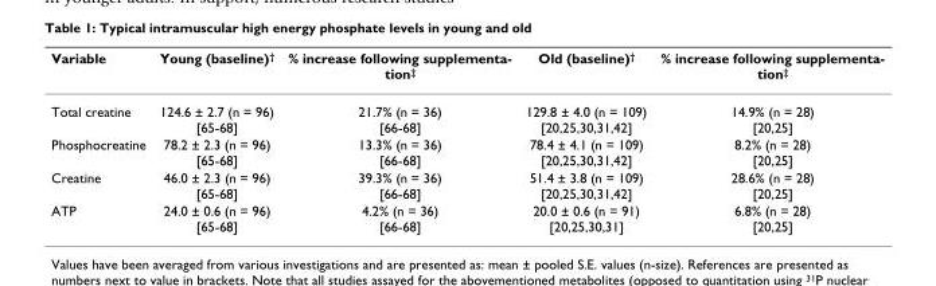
<table><thead><tr><td>Variable</td><td>Young (baseline)<sup>†</sup></td><td>% increase following supplementa- tion‡</td><td>Old (baseline)<sup>†</sup></td><td>% increase following supplementa- tion‡</td></tr></thead><tbody><tr><td>Total creatine</td><td>124.6 ± 2.7 (n = 96) [65-68]</td><td>21.7% (n = 36) [66-68]</td><td>129.8 ± 4.0 (n = 109) [20,25,30,31,42]</td><td>14.9% (n = 28) [20,25]</td></tr><tr><td>Phosphocreatine</td><td>78.2 ± 2.3 (n = 96) [65-68]</td><td>13.3% (n = 36) [66-68]</td><td>78.4 ± 4.1 (n = 109) [20,25,30,31,42]</td><td>8.2% (n = 28) [20,25]</td></tr><tr><td>Creatine</td><td>46.0 ± 2.3 (n = 96) [65-68]</td><td>39.3% (n = 36) [66-68]</td><td>51.4 ± 3.8 (n = 109) [20,25,30,31,42]</td><td>28.6% (n = 28) [20,25]</td></tr><tr><td>ATP</td><td>24.0 ± 0.6 (n = 96) [65-68]</td><td>4.2% (n = 36) [66-68]</td><td>20.0 ± 0.6 (n = 91) [20,25,30,31]</td><td>6.8% (n = 28) [20,25]</td></tr></tbody></table>